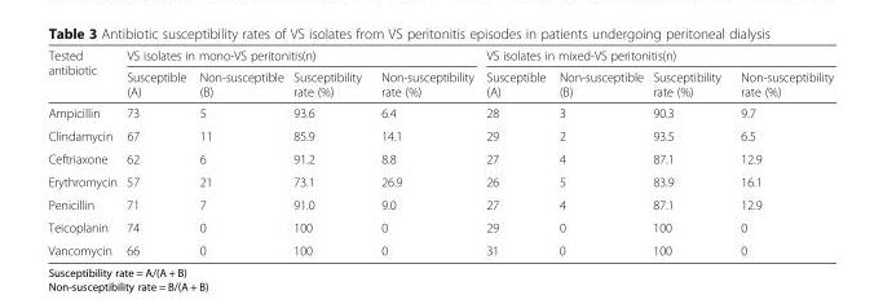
<table><thead><tr><td rowspan="2">Tested antibiotic</td><td colspan="4">VS isolates in mono-VS peritonitis(n)</td><td colspan="4">VS isolates in mixed-VS peritonitis(n)</td></tr><tr><td>Susceptible (A)</td><td>Non-susceptible (B)</td><td>Susceptibility rate (%)</td><td>Non-susceptibility rate (%)</td><td>Susceptible (A)</td><td>Non-susceptible (B)</td><td>Susceptibility rate (%)</td><td>Non-susceptibility rate (%)</td></tr></thead><tbody><tr><td>Ampicillin</td><td>73</td><td>5</td><td>93.6</td><td>6.4</td><td>28</td><td>3</td><td>90.3</td><td>9.7</td></tr><tr><td>Clindamycin</td><td>67</td><td>11</td><td>85.9</td><td>14.1</td><td>29</td><td>2</td><td>93.5</td><td>6.5</td></tr><tr><td>Ceftriaxone</td><td>62</td><td>6</td><td>91.2</td><td>8.8</td><td>27</td><td>4</td><td>87.1</td><td>12.9</td></tr><tr><td>Erythromycin</td><td>57</td><td>21</td><td>73.1</td><td>26.9</td><td>26</td><td>5</td><td>83.9</td><td>16.1</td></tr><tr><td>Penicillin</td><td>71</td><td>7</td><td>91.0</td><td>9.0</td><td>27</td><td>4</td><td>87.1</td><td>12.9</td></tr><tr><td>Teicoplanin</td><td>74</td><td>0</td><td>100</td><td>0</td><td>29</td><td>0</td><td>100</td><td>0</td></tr><tr><td>Vancomycin</td><td>66</td><td>0</td><td>100</td><td>0</td><td>31</td><td>0</td><td>100</td><td>0</td></tr></tbody></table>